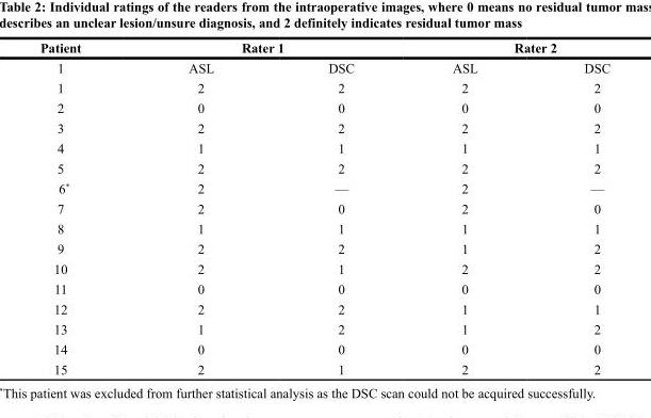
<table><thead><tr><td rowspan="2">Patient 1</td><td colspan="2">Rater 1</td><td colspan="2">Rater 2</td></tr><tr><td>ASL</td><td>DSC</td><td>ASL</td><td>DSC</td></tr></thead><tbody><tr><td>1</td><td>2</td><td>2</td><td>2</td><td>2</td></tr><tr><td>2</td><td>0</td><td>0</td><td>0</td><td>0</td></tr><tr><td>3</td><td>2</td><td>2</td><td>2</td><td>2</td></tr><tr><td>4</td><td>1</td><td>1</td><td>1</td><td>1</td></tr><tr><td>5</td><td>2</td><td>2</td><td>2</td><td>2</td></tr><tr><td>6*</td><td>2</td><td>—</td><td>2</td><td>—</td></tr><tr><td>7</td><td>2</td><td>0</td><td>2</td><td>0</td></tr><tr><td>8</td><td>1</td><td>1</td><td>1</td><td>1</td></tr><tr><td>9</td><td>2</td><td>2</td><td>1</td><td>2</td></tr><tr><td>10</td><td>2</td><td>1</td><td>2</td><td>2</td></tr><tr><td>11</td><td>0</td><td>0</td><td>0</td><td>0</td></tr><tr><td>12</td><td>2</td><td>2</td><td>1</td><td>1</td></tr><tr><td>13</td><td>1</td><td>2</td><td>1</td><td>2</td></tr><tr><td>14</td><td>0</td><td>0</td><td>0</td><td>0</td></tr><tr><td>15</td><td>2</td><td>1</td><td>2</td><td>2</td></tr></tbody></table>